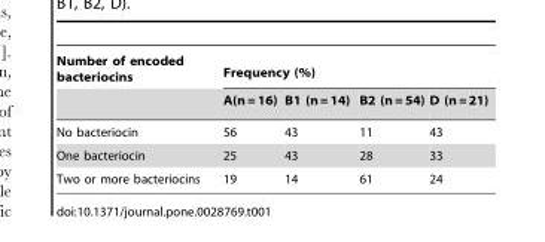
<table><thead><tr><td rowspan="2">Number of encoded bacteriocins</td><td colspan="4">Frequency (%)</td></tr><tr><td>A(n = 16)</td><td>B1 (n = 14)</td><td>B2 (n = 54)</td><td>D (n = 21)</td></tr></thead><tbody><tr><td>No bacteriocin</td><td>56</td><td>43</td><td>11</td><td>43</td></tr><tr><td>One bacteriocin</td><td>25</td><td>43</td><td>28</td><td>33</td></tr><tr><td>Two or more bacteriocins</td><td>19</td><td>14</td><td>61</td><td>24</td></tr></tbody></table>